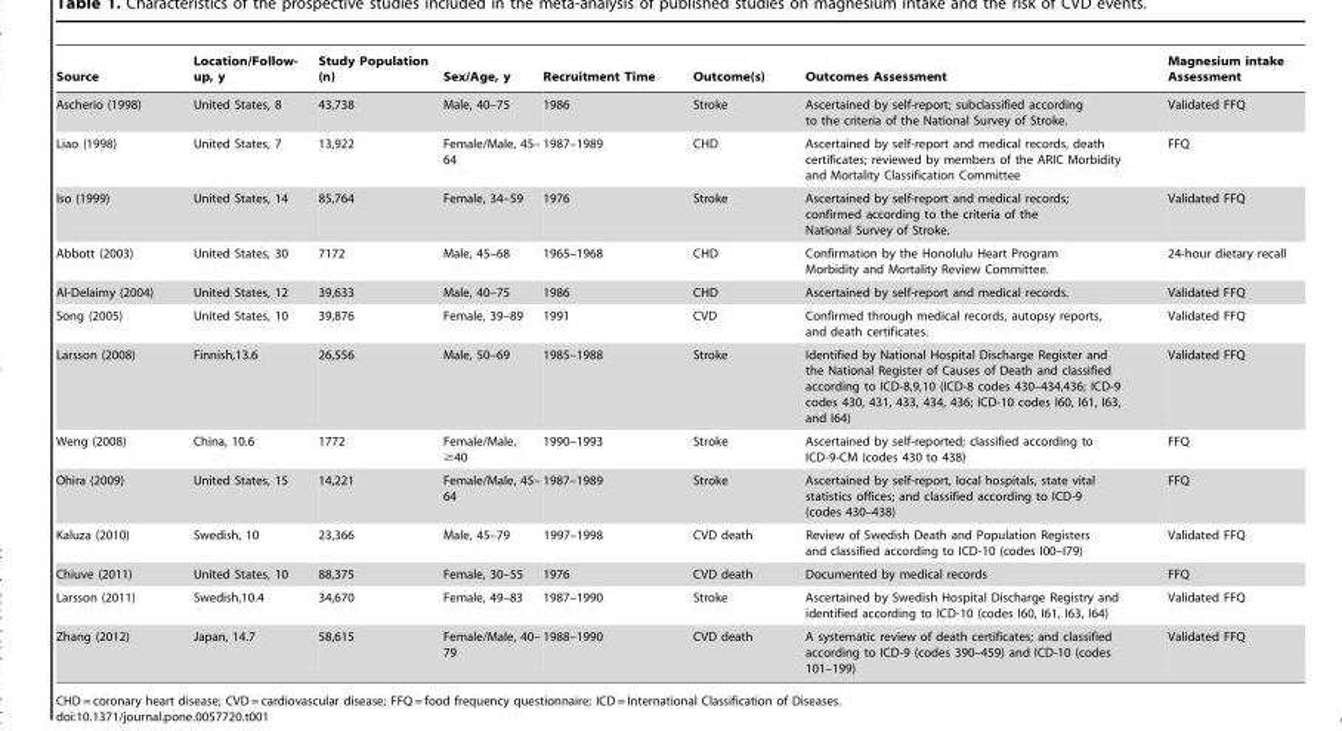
<table><thead><tr><td>Source</td><td>Location/Follow- up, y</td><td>Study Population (n)</td><td>Sex/Age, y</td><td>Recruitment Time</td><td>Outcome(s)</td><td>Outcomes Assessment</td><td>Magnesium intake Assessment</td></tr></thead><tbody><tr><td>Ascherio (1998)</td><td>United States, 8</td><td>43,738</td><td>Male, 40–75</td><td>1986</td><td>Stroke</td><td>Ascertained by self-report; subclassified according to the criteria of the National Survey of Stroke.</td><td>Validated FFQ</td></tr><tr><td>Liao (1998)</td><td>United States, 7</td><td>13,922</td><td>Female/Male, 45– 64</td><td>1987–1989</td><td>CHD</td><td>Ascertained by self-report and medical records, death certificates; reviewed by members of the ARIC Morbidity and Mortality Classification Committee</td><td>FFQ</td></tr><tr><td>Iso (1999)</td><td>United States, 14</td><td>85,764</td><td>Female, 34–59</td><td>1976</td><td>Stroke</td><td>Ascertained by self-report and medical records; confirmed according to the criteria of the National Survey of Stroke.</td><td>Validated FFQ</td></tr><tr><td>Abbott (2003)</td><td>United States, 30</td><td>7172</td><td>Male, 45–68</td><td>1965–1968</td><td>CHD</td><td>Confirmation by the Honolulu Heart Program Morbidity and Mortality Review Committee.</td><td>24-hour dietary recall</td></tr><tr><td>Al-Delaimy (2004)</td><td>United States, 12</td><td>39,633</td><td>Male, 40–75</td><td>1986</td><td>CHD</td><td>Ascertained by self-report and medical records.</td><td>Validated FFQ</td></tr><tr><td>Song (2005)</td><td>United States, 10</td><td>39,876</td><td>Female, 39–89</td><td>1991</td><td>CVD</td><td>Confirmed through medical records, autopsy reports, and death certificates.</td><td>Validated FFQ</td></tr><tr><td>Larsson (2008)</td><td>Finnish,13.6</td><td>26,556</td><td>Male, 50–69</td><td>1985–1988</td><td>Stroke</td><td>Identified by National Hospital Discharge Register and the National Register of Causes of Death and classified according to ICD-8,9,10 (ICD-8 codes 430–434,436; ICD-9 codes 430, 431, 433, 434, 436; ICD-10 codes I60, I61, I63, and I64)</td><td>Validated FFQ</td></tr><tr><td>Weng (2008)</td><td>China, 10.6</td><td>1772</td><td>Female/Male, ≥40</td><td>1990–1993</td><td>Stroke</td><td>Ascertained by self-reported; classified according to ICD-9-CM (codes 430 to 438)</td><td>FFQ</td></tr><tr><td>Ohira (2009)</td><td>United States, 15</td><td>14,221</td><td>Female/Male, 45– 64</td><td>1987–1989</td><td>Stroke</td><td>Ascertained by self-report, local hospitals, state vital statistics offices; and classified according to ICD-9 (codes 430–438)</td><td>FFQ</td></tr><tr><td>Kaluza (2010)</td><td>Swedish, 10</td><td>23,366</td><td>Male, 45–79</td><td>1997–1998</td><td>CVD death</td><td>Review of Swedish Death and Population Registers and classified according to ICD-10 (codes I00–I79)</td><td>Validated FFQ</td></tr><tr><td>Chiuve (2011)</td><td>United States, 10</td><td>88,375</td><td>Female, 30–55</td><td>1976</td><td>CVD death</td><td>Documented by medical records</td><td>FFQ</td></tr><tr><td>Larsson (2011)</td><td>Swedish,10.4</td><td>34,670</td><td>Female, 49–83</td><td>1987–1990</td><td>Stroke</td><td>Ascertained by Swedish Hospital Discharge Registry and identified according to ICD-10 (codes I60, I61, I63, I64)</td><td>Validated FFQ</td></tr><tr><td>Zhang (2012)</td><td>Japan, 14.7</td><td>58,615</td><td>Female/Male, 40– 79</td><td>1988–1990</td><td>CVD death</td><td>A systematic review of death certificates; and classified according to ICD-9 (codes 390–459) and ICD-10 (codes 101–199)</td><td>Validated FFQ</td></tr></tbody></table>